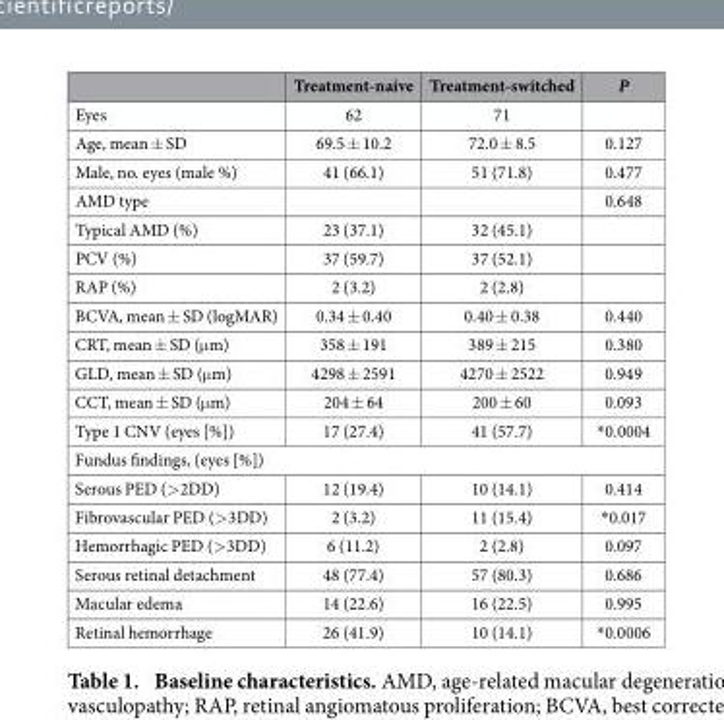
<table><thead><tr><td></td><td>Treatment-naive</td><td>Treatment-switched</td><td>P</td></tr></thead><tbody><tr><td>Eyes</td><td>62</td><td>71</td><td></td></tr><tr><td>Age, mean ± SD</td><td>69.5 ± 10.2</td><td>72.0 ± 8.5</td><td>0.127</td></tr><tr><td>Male, no. eyes (male %)</td><td>41 (66.1)</td><td>51 (71.8)</td><td>0.477</td></tr><tr><td>AMD type</td><td></td><td></td><td>0.648</td></tr><tr><td>Typical AMD (%)</td><td>23 (37.1)</td><td>32 (45.1)</td><td></td></tr><tr><td>PCV (%)</td><td>37 (59.7)</td><td>37 (52.1)</td><td></td></tr><tr><td>RAP (%)</td><td>2 (3.2)</td><td>2 (2.8)</td><td></td></tr><tr><td>BCVA, mean ± SD (logMAR)</td><td>0.34 ± 0.40</td><td>0.40 ± 0.38</td><td>0.440</td></tr><tr><td>CRT, mean ± SD (μ m)</td><td>358 ± 191</td><td>389 ± 215</td><td>0.380</td></tr><tr><td>GLD, mean ± SD (μ m)</td><td>4298 ± 2591</td><td>4270 ± 2522</td><td>0.949</td></tr><tr><td>CCT, mean ± SD (μ m)</td><td>204 ± 64</td><td>200 ± 60</td><td>0.093</td></tr><tr><td>Type 1 CNV (eyes [%])</td><td>17 (27.4)</td><td>41 (57.7)</td><td>* 0.0004</td></tr><tr><td colspan="4">Fundus findings, (eyes [%])</td></tr><tr><td>Serous PED (&gt; 2DD)</td><td>12 (19.4)</td><td>10 (14.1)</td><td>0.414</td></tr><tr><td>Fibrovascular PED (&gt; 3DD)</td><td>2 (3.2)</td><td>11 (15.4)</td><td>* 0.017</td></tr><tr><td>Hemorrhagic PED (&gt; 3DD)</td><td>6 (11.2)</td><td>2 (2.8)</td><td>0.097</td></tr><tr><td>Serous retinal detachment</td><td>48 (77.4)</td><td>57 (80.3)</td><td>0.686</td></tr><tr><td>Macular edema</td><td>14 (22.6)</td><td>16 (22.5)</td><td>0.995</td></tr><tr><td>Retinal hemorrhage</td><td>26 (41.9)</td><td>10 (14.1)</td><td>* 0.0006</td></tr></tbody></table>